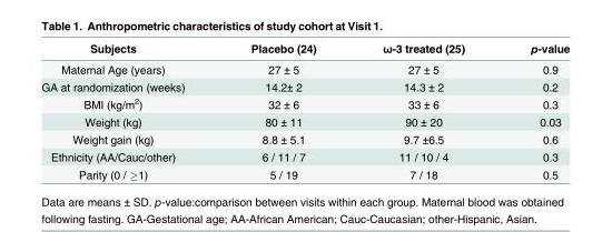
<table><thead><tr><td>Subjects</td><td>Placebo (24)</td><td>ω-3 treated (25)</td><td>p-value</td></tr></thead><tbody><tr><td>Maternal Age (years)</td><td>27 ± 5</td><td>27 ± 5</td><td>0.9</td></tr><tr><td>GA at randomization (weeks)</td><td>14.2± 2</td><td>14.3 ± 2</td><td>0.2</td></tr><tr><td>BMI (kg/m<sup>2</sup>)</td><td>32 ± 6</td><td>33 ± 6</td><td>0.3</td></tr><tr><td>Weight (kg)</td><td>80 ± 11</td><td>90 ± 20</td><td>0.03</td></tr><tr><td>Weight gain (kg)</td><td>8.8 ± 5.1</td><td>9.7 ±6.5</td><td>0.6</td></tr><tr><td>Ethnicity (AA/Cauc/other)</td><td>6 / 11 / 7</td><td>11 / 10 / 4</td><td>0.3</td></tr><tr><td>Parity (0 / ≥1)</td><td>5 / 19</td><td>7 / 18</td><td>0.5</td></tr></tbody></table>